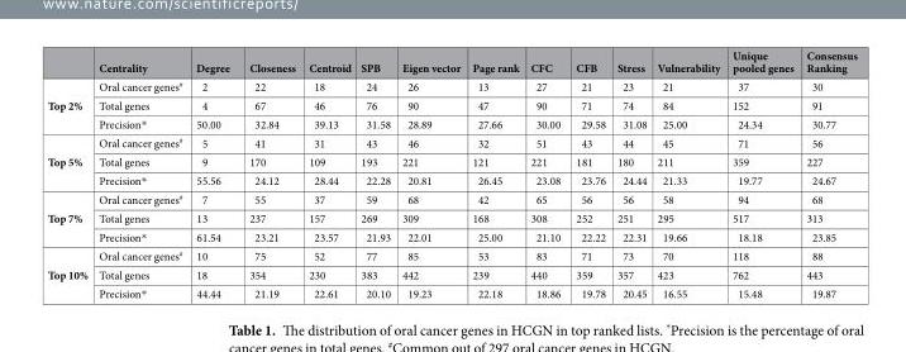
<table><thead><tr><td></td><td>Centrality</td><td>Degree</td><td>Closeness</td><td>Centroid</td><td>SPB</td><td>Eigen vector</td><td>Page rank</td><td>CFC</td><td>CFB</td><td>Stress</td><td>Vulnerability</td><td>Unique pooled genes</td><td>Consensus Ranking</td></tr></thead><tbody><tr><td rowspan="3">Top 2%</td><td>Oral cancer genes<sup>#</sup></td><td>2</td><td>22</td><td>18</td><td>24</td><td>26</td><td>13</td><td>27</td><td>21</td><td>23</td><td>21</td><td>37</td><td>30</td></tr><tr><td>Total genes</td><td>4</td><td>67</td><td>46</td><td>76</td><td>90</td><td>47</td><td>90</td><td>71</td><td>74</td><td>84</td><td>152</td><td>91</td></tr><tr><td>Precision*</td><td>50.00</td><td>32.84</td><td>39.13</td><td>31.58</td><td>28.89</td><td>27.66</td><td>30.00</td><td>29.58</td><td>31.08</td><td>25.00</td><td>24.34</td><td>30.77</td></tr><tr><td rowspan="3">Top 5%</td><td>Oral cancer genes<sup>#</sup></td><td>5</td><td>41</td><td>31</td><td>43</td><td>46</td><td>32</td><td>51</td><td>43</td><td>44</td><td>45</td><td>71</td><td>56</td></tr><tr><td>Total genes</td><td>9</td><td>170</td><td>109</td><td>193</td><td>221</td><td>121</td><td>221</td><td>181</td><td>180</td><td>211</td><td>359</td><td>227</td></tr><tr><td>Precision*</td><td>55.56</td><td>24.12</td><td>28.44</td><td>22.28</td><td>20.81</td><td>26.45</td><td>23.08</td><td>23.76</td><td>24.44</td><td>21.33</td><td>19.77</td><td>24.67</td></tr><tr><td rowspan="3">Top 7%</td><td>Oral cancer genes<sup>#</sup></td><td>7</td><td>55</td><td>37</td><td>59</td><td>68</td><td>42</td><td>65</td><td>56</td><td>56</td><td>58</td><td>94</td><td>68</td></tr><tr><td>Total genes</td><td>13</td><td>237</td><td>157</td><td>269</td><td>309</td><td>168</td><td>308</td><td>252</td><td>251</td><td>295</td><td>517</td><td>313</td></tr><tr><td>Precision*</td><td>61.54</td><td>23.21</td><td>23.57</td><td>21.93</td><td>22.01</td><td>25.00</td><td>21.10</td><td>22.22</td><td>22.31</td><td>19.66</td><td>18.18</td><td>23.85</td></tr><tr><td rowspan="3">Top 10%</td><td>Oral cancer genes<sup>#</sup></td><td>10</td><td>75</td><td>52</td><td>77</td><td>85</td><td>53</td><td>83</td><td>71</td><td>73</td><td>70</td><td>118</td><td>88</td></tr><tr><td>Total genes</td><td>18</td><td>354</td><td>230</td><td>383</td><td>442</td><td>239</td><td>440</td><td>359</td><td>357</td><td>423</td><td>762</td><td>443</td></tr><tr><td>Precision*</td><td>44.44</td><td>21.19</td><td>22.61</td><td>20.10</td><td>19.23</td><td>22.18</td><td>18.86</td><td>19.78</td><td>20.45</td><td>16.55</td><td>15.48</td><td>19.87</td></tr></tbody></table>